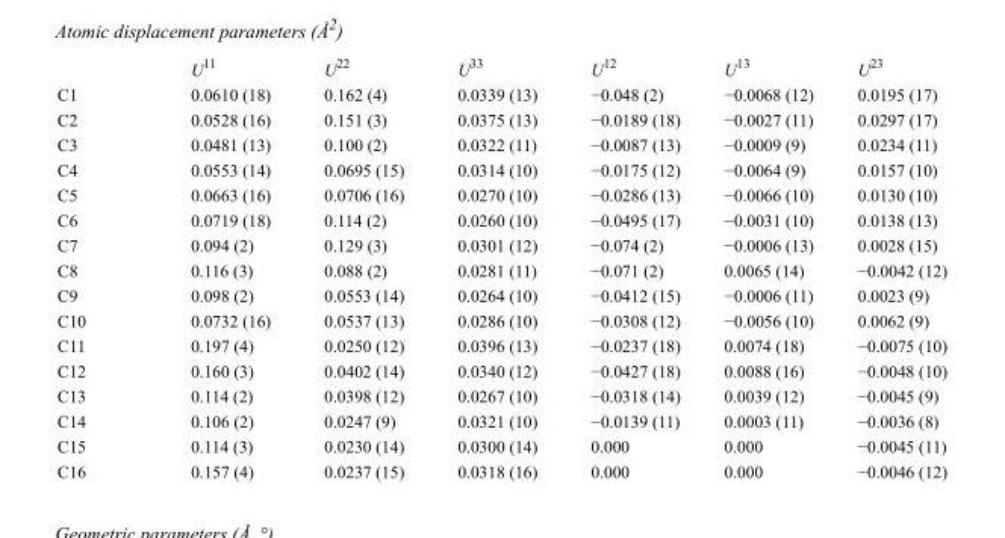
<table><thead><tr><td></td><td>U<sup>11</sup></td><td>U<sup>22</sup></td><td>U<sup>33</sup></td><td>U<sup>12</sup></td><td>U<sup>13</sup></td><td>U<sup>23</sup></td></tr></thead><tbody><tr><td>C1</td><td>0.0610 (18)</td><td>0.162 (4)</td><td>0.0339 (13)</td><td>−0.048 (2)</td><td>−0.0068 (12)</td><td>0.0195 (17)</td></tr><tr><td>C2</td><td>0.0528 (16)</td><td>0.151 (3)</td><td>0.0375 (13)</td><td>−0.0189 (18)</td><td>−0.0027 (11)</td><td>0.0297 (17)</td></tr><tr><td>C3</td><td>0.0481 (13)</td><td>0.100 (2)</td><td>0.0322 (11)</td><td>−0.0087 (13)</td><td>−0.0009 (9)</td><td>0.0234 (11)</td></tr><tr><td>C4</td><td>0.0553 (14)</td><td>0.0695 (15)</td><td>0.0314 (10)</td><td>−0.0175 (12)</td><td>−0.0064 (9)</td><td>0.0157 (10)</td></tr><tr><td>C5</td><td>0.0663 (16)</td><td>0.0706 (16)</td><td>0.0270 (10)</td><td>−0.0286 (13)</td><td>−0.0066 (10)</td><td>0.0130 (10)</td></tr><tr><td>C6</td><td>0.0719 (18)</td><td>0.114 (2)</td><td>0.0260 (10)</td><td>−0.0495 (17)</td><td>−0.0031 (10)</td><td>0.0138 (13)</td></tr><tr><td>C7</td><td>0.094 (2)</td><td>0.129 (3)</td><td>0.0301 (12)</td><td>−0.074 (2)</td><td>−0.0006 (13)</td><td>0.0028 (15)</td></tr><tr><td>C8</td><td>0.116 (3)</td><td>0.088 (2)</td><td>0.0281 (11)</td><td>−0.071 (2)</td><td>0.0065 (14)</td><td>−0.0042 (12)</td></tr><tr><td>C9</td><td>0.098 (2)</td><td>0.0553 (14)</td><td>0.0264 (10)</td><td>−0.0412 (15)</td><td>−0.0006 (11)</td><td>0.0023 (9)</td></tr><tr><td>C10</td><td>0.0732 (16)</td><td>0.0537 (13)</td><td>0.0286 (10)</td><td>−0.0308 (12)</td><td>−0.0056 (10)</td><td>0.0062 (9)</td></tr><tr><td>C11</td><td>0.197 (4)</td><td>0.0250 (12)</td><td>0.0396 (13)</td><td>−0.0237 (18)</td><td>0.0074 (18)</td><td>−0.0075 (10)</td></tr><tr><td>C12</td><td>0.160 (3)</td><td>0.0402 (14)</td><td>0.0340 (12)</td><td>−0.0427 (18)</td><td>0.0088 (16)</td><td>−0.0048 (10)</td></tr><tr><td>C13</td><td>0.114 (2)</td><td>0.0398 (12)</td><td>0.0267 (10)</td><td>−0.0318 (14)</td><td>0.0039 (12)</td><td>−0.0045 (9)</td></tr><tr><td>C14</td><td>0.106 (2)</td><td>0.0247 (9)</td><td>0.0321 (10)</td><td>−0.0139 (11)</td><td>0.0003 (11)</td><td>−0.0036 (8)</td></tr><tr><td>C15</td><td>0.114 (3)</td><td>0.0230 (14)</td><td>0.0300 (14)</td><td>0.000</td><td>0.000</td><td>−0.0045 (11)</td></tr><tr><td>C16</td><td>0.157 (4)</td><td>0.0237 (15)</td><td>0.0318 (16)</td><td>0.000</td><td>0.000</td><td>−0.0046 (12)</td></tr></tbody></table>